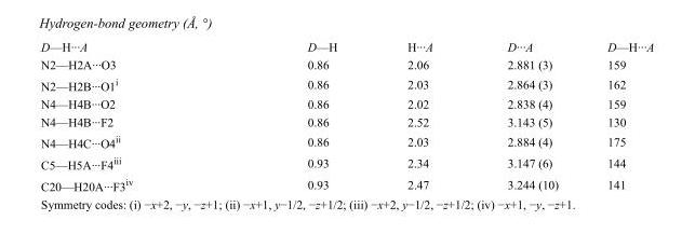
<table><tbody><tr><td>D—H···A</td><td>D—H</td><td>H···A</td><td>D···A</td><td>D—H···A</td></tr><tr><td>N2—H2A···O3</td><td>0.86</td><td>2.06</td><td>2.881 (3)</td><td>159</td></tr><tr><td>N2—H2B···O1<sup>i</sup></td><td>0.86</td><td>2.03</td><td>2.864 (3)</td><td>162</td></tr><tr><td>N4—H4B···O2</td><td>0.86</td><td>2.02</td><td>2.838 (4)</td><td>159</td></tr><tr><td>N4—H4B···F2</td><td>0.86</td><td>2.52</td><td>3.143 (5)</td><td>130</td></tr><tr><td>N4—H4C···O4<sup>ii</sup></td><td>0.86</td><td>2.03</td><td>2.884 (4)</td><td>175</td></tr><tr><td>C5—H5A···F4<sup>iii</sup></td><td>0.93</td><td>2.34</td><td>3.147 (6)</td><td>144</td></tr><tr><td>C20—H20A···F3<sup>iv</sup></td><td>0.93</td><td>2.47</td><td>3.244 (10)</td><td>141</td></tr></tbody></table>